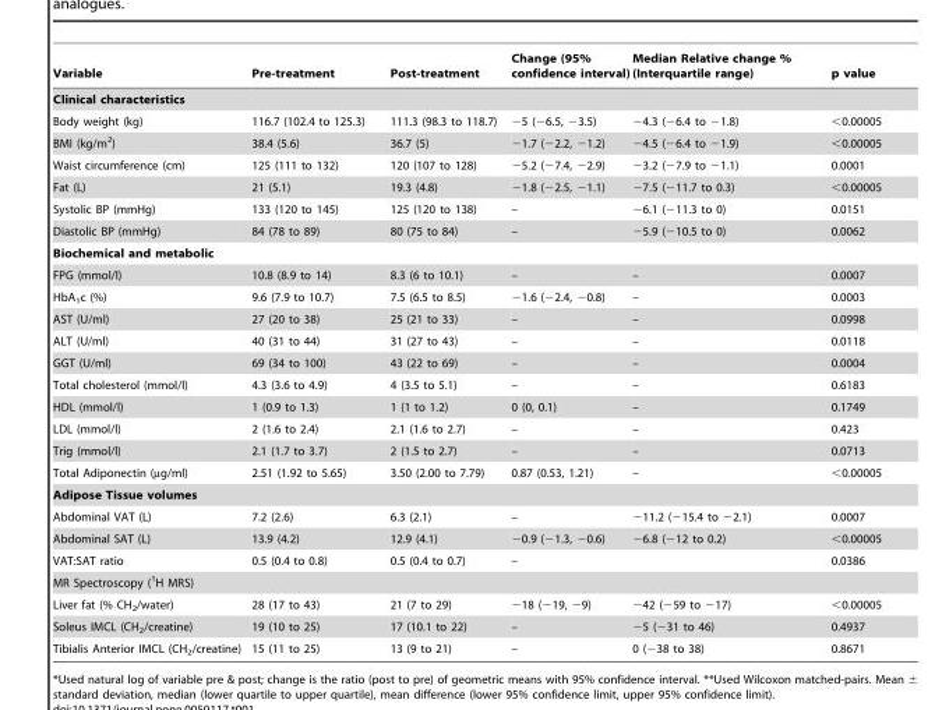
<table><thead><tr><td>Variable</td><td>Pre-treatment</td><td>Post-treatment</td><td>Change (95% confidence interval)</td><td>Median Relative change % (Interquartile range)</td><td>p value</td></tr></thead><tbody><tr><td colspan="6">Clinical characteristics</td></tr><tr><td>Body weight (kg)</td><td>116.7 (102.4 to 125.3)</td><td>111.3 (98.3 to 118.7)</td><td>−5 (−6.5, −3.5)</td><td>−4.3 (−6.4 to −1.8)</td><td>&lt;0.00005</td></tr><tr><td>BMI (kg/m<sup>2</sup>)</td><td>38.4 (5.6)</td><td>36.7 (5)</td><td>−1.7 (−2.2, −1.2)</td><td>−4.5 (−6.4 to −1.9)</td><td>&lt;0.00005</td></tr><tr><td>Waist circumference (cm)</td><td>125 (111 to 132)</td><td>120 (107 to 128)</td><td>−5.2 (−7.4, −2.9)</td><td>−3.2 (−7.9 to −1.1)</td><td>0.0001</td></tr><tr><td>Fat (L)</td><td>21 (5.1)</td><td>19.3 (4.8)</td><td>−1.8 (−2.5, −1.1)</td><td>−7.5 (−11.7 to 0.3)</td><td>&lt;0.00005</td></tr><tr><td>Systolic BP (mmHg)</td><td>133 (120 to 145)</td><td>125 (120 to 138)</td><td>–</td><td>−6.1 (−11.3 to 0)</td><td>0.0151</td></tr><tr><td>Diastolic BP (mmHg)</td><td>84 (78 to 89)</td><td>80 (75 to 84)</td><td>–</td><td>−5.9 (−10.5 to 0)</td><td>0.0062</td></tr><tr><td colspan="6">Biochemical and metabolic</td></tr><tr><td>FPG (mmol/l)</td><td>10.8 (8.9 to 14)</td><td>8.3 (6 to 10.1)</td><td>–</td><td>–</td><td>0.0007</td></tr><tr><td>HbA<sub>1</sub>c (%)</td><td>9.6 (7.9 to 10.7)</td><td>7.5 (6.5 to 8.5)</td><td>−1.6 (−2.4, −0.8)</td><td>–</td><td>0.0003</td></tr><tr><td>AST (U/ml)</td><td>27 (20 to 38)</td><td>25 (21 to 33)</td><td>–</td><td>–</td><td>0.0998</td></tr><tr><td>ALT (U/ml)</td><td>40 (31 to 44)</td><td>31 (27 to 43)</td><td>–</td><td>–</td><td>0.0118</td></tr><tr><td>GGT (U/ml)</td><td>69 (34 to 100)</td><td>43 (22 to 69)</td><td>–</td><td>–</td><td>0.0004</td></tr><tr><td>Total cholesterol (mmol/l)</td><td>4.3 (3.6 to 4.9)</td><td>4 (3.5 to 5.1)</td><td>–</td><td>–</td><td>0.6183</td></tr><tr><td>HDL (mmol/l)</td><td>1 (0.9 to 1.3)</td><td>1 (1 to 1.2)</td><td>0 (0, 0.1)</td><td>–</td><td>0.1749</td></tr><tr><td>LDL (mmol/l)</td><td>2 (1.6 to 2.4)</td><td>2.1 (1.6 to 2.7)</td><td>–</td><td>–</td><td>0.423</td></tr><tr><td>Trig (mmol/l)</td><td>2.1 (1.7 to 3.7)</td><td>2 (1.5 to 2.7)</td><td>–</td><td>–</td><td>0.0713</td></tr><tr><td>Total Adiponectin (µg/ml)</td><td>2.51 (1.92 to 5.65)</td><td>3.50 (2.00 to 7.79)</td><td>0.87 (0.53, 1.21)</td><td>–</td><td>&lt;0.00005</td></tr><tr><td colspan="6">Adipose Tissue volumes</td></tr><tr><td>Abdominal VAT (L)</td><td>7.2 (2.6)</td><td>6.3 (2.1)</td><td>–</td><td>−11.2 (−15.4 to −2.1)</td><td>0.0007</td></tr><tr><td>Abdominal SAT (L)</td><td>13.9 (4.2)</td><td>12.9 (4.1)</td><td>−0.9 (−1.3, −0.6)</td><td>−6.8 (−12 to 0.2)</td><td>&lt;0.00005</td></tr><tr><td>VAT:SAT ratio</td><td>0.5 (0.4 to 0.8)</td><td>0.5 (0.4 to 0.7)</td><td>–</td><td></td><td>0.0386</td></tr><tr><td colspan="6">MR Spectroscopy (<sup>1</sup>H MRS)</td></tr><tr><td>Liver fat (% CH<sub>2</sub>/water)</td><td>28 (17 to 43)</td><td>21 (7 to 29)</td><td>−18 (−19, −9)</td><td>−42 (−59 to −17)</td><td>&lt;0.00005</td></tr><tr><td>Soleus IMCL (CH<sub>2</sub>/creatine)</td><td>19 (10 to 25)</td><td>17 (10.1 to 22)</td><td>–</td><td>−5 (−31 to 46)</td><td>0.4937</td></tr><tr><td>Tibialis Anterior IMCL (CH<sub>2</sub>/creatine)</td><td>15 (11 to 25)</td><td>13 (9 to 21)</td><td>–</td><td>0 (−38 to 38)</td><td>0.8671</td></tr></tbody></table>